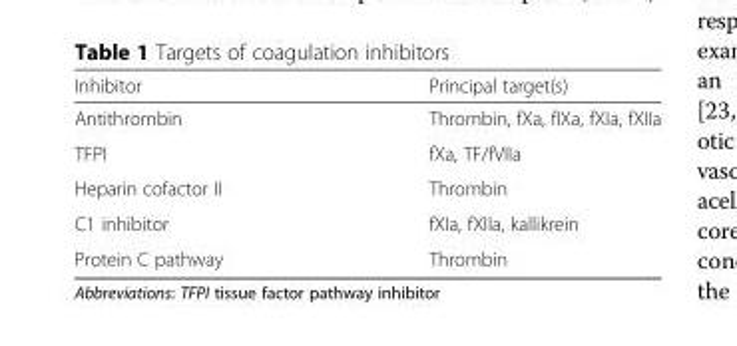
<table><thead><tr><td>Inhibitor</td><td>Principal target(s)</td></tr></thead><tbody><tr><td>Antithrombin</td><td>Thrombin, fXa, fIXa, fXIa, fXIIa</td></tr><tr><td>TFPI</td><td>fXa, TF/fVIIa</td></tr><tr><td>Heparin cofactor II</td><td>Thrombin</td></tr><tr><td>C1 inhibitor</td><td>fXIa, fXIIa, kallikrein</td></tr><tr><td>Protein C pathway</td><td>Thrombin</td></tr></tbody></table>